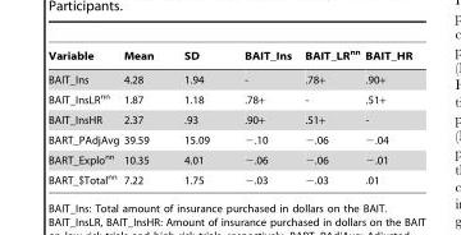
<table><thead><tr><td>Variable</td><td>Mean</td><td>SD</td><td>BAIT_Ins</td><td>BAIT_LR<sup>nn</sup></td><td>BAIT_HR</td></tr></thead><tbody><tr><td>BAIT_Ins</td><td>4.28</td><td>1.94</td><td>-</td><td>.78+</td><td>.90+</td></tr><tr><td>BAIT_InsLR<sup>nn</sup></td><td>1.87</td><td>1.18</td><td>.78+</td><td>-</td><td>.51+</td></tr><tr><td>BAIT_InsHR</td><td>2.37</td><td>.93</td><td>.90+</td><td>.51+</td><td>-</td></tr><tr><td>BART_PAdjAvg</td><td>39.59</td><td>15.09</td><td>−.10</td><td>−.06</td><td>−.04</td></tr><tr><td>BART_Explo<sup>nn</sup></td><td>10.35</td><td>4.01</td><td>−.06</td><td>−.06</td><td>−.01</td></tr><tr><td>BART_$Total<sup>nn</sup></td><td>7.22</td><td>1.75</td><td>−.03</td><td>−.03</td><td>.01</td></tr></tbody></table>